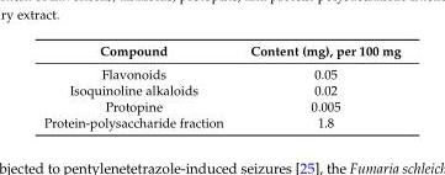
<table><thead><tr><td>Compound</td><td>Content (mg), per 100 mg</td></tr></thead><tbody><tr><td>Flavonoids</td><td>0.05</td></tr><tr><td>Isoquinoline alkaloids</td><td>0.02</td></tr><tr><td>Protopine</td><td>0.005</td></tr><tr><td>Protein-polysaccharide fraction</td><td>1.8</td></tr></tbody></table>